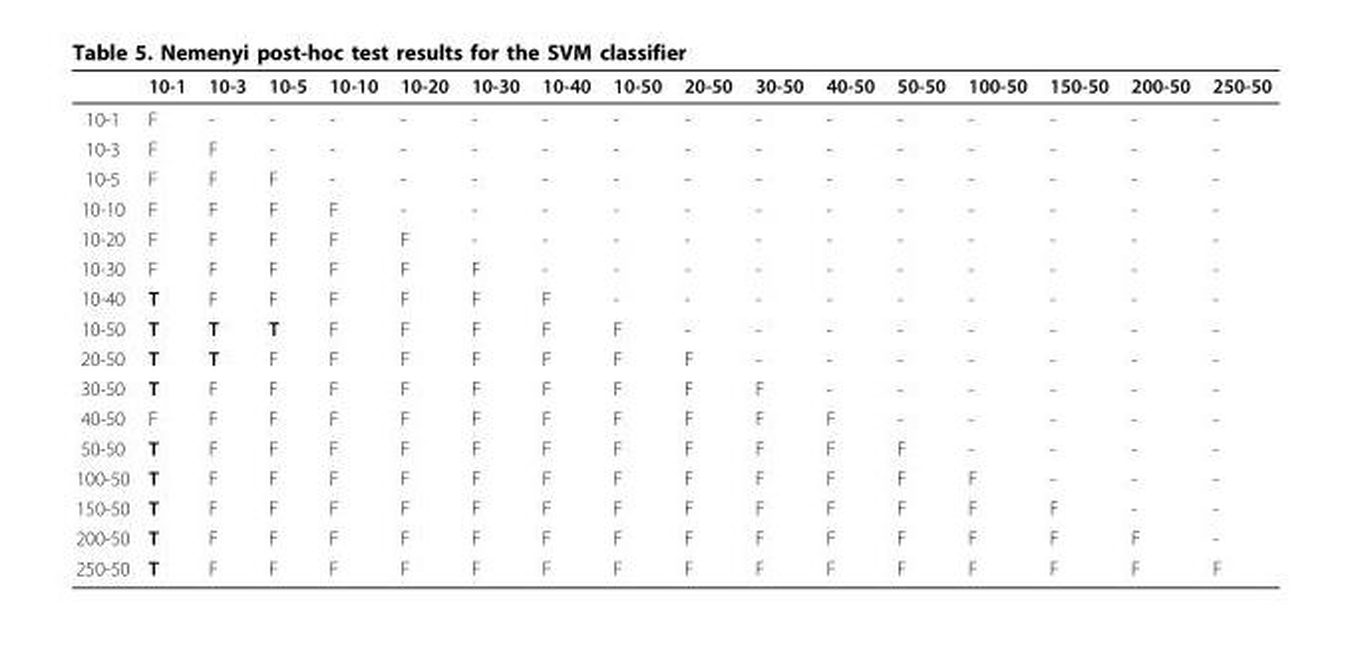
<table><thead><tr><td></td><td>10-1</td><td>10-3</td><td>10-5</td><td>10-10</td><td>10-20</td><td>10-30</td><td>10-40</td><td>10-50</td><td>20-50</td><td>30-50</td><td>40-50</td><td>50-50</td><td>100-50</td><td>150-50</td><td>200-50</td><td>250-50</td></tr></thead><tbody><tr><td>10-1</td><td>F</td><td>-</td><td>-</td><td>-</td><td>-</td><td>-</td><td>-</td><td>-</td><td>-</td><td>-</td><td>-</td><td>-</td><td>-</td><td>-</td><td>-</td><td>-</td></tr><tr><td>10-3</td><td>F</td><td>F</td><td>-</td><td>-</td><td>-</td><td>-</td><td>-</td><td>-</td><td>-</td><td>-</td><td>-</td><td>-</td><td>-</td><td>-</td><td>-</td><td>-</td></tr><tr><td>10-5</td><td>F</td><td>F</td><td>F</td><td>-</td><td>-</td><td>-</td><td>-</td><td>-</td><td>-</td><td>-</td><td>-</td><td>-</td><td>-</td><td>-</td><td>-</td><td>-</td></tr><tr><td>10-10</td><td>F</td><td>F</td><td>F</td><td>F</td><td>-</td><td>-</td><td>-</td><td>-</td><td>-</td><td>-</td><td>-</td><td>-</td><td>-</td><td>-</td><td>-</td><td>-</td></tr><tr><td>10-20</td><td>F</td><td>F</td><td>F</td><td>F</td><td>F</td><td>-</td><td>-</td><td>-</td><td>-</td><td>-</td><td>-</td><td>-</td><td>-</td><td>-</td><td>-</td><td>-</td></tr><tr><td>10-30</td><td>F</td><td>F</td><td>F</td><td>F</td><td>F</td><td>F</td><td>-</td><td>-</td><td>-</td><td>-</td><td>-</td><td>-</td><td>-</td><td>-</td><td>-</td><td>-</td></tr><tr><td>10-40</td><td>T</td><td>F</td><td>F</td><td>F</td><td>F</td><td>F</td><td>F</td><td>-</td><td>-</td><td>-</td><td>-</td><td>-</td><td>-</td><td>-</td><td>-</td><td>-</td></tr><tr><td>10-50</td><td>T</td><td>T</td><td>T</td><td>F</td><td>F</td><td>F</td><td>F</td><td>F</td><td>-</td><td>-</td><td>-</td><td>-</td><td>-</td><td>-</td><td>-</td><td>-</td></tr><tr><td>20-50</td><td>T</td><td>T</td><td>F</td><td>F</td><td>F</td><td>F</td><td>F</td><td>F</td><td>F</td><td>-</td><td>-</td><td>-</td><td>-</td><td>-</td><td>-</td><td>-</td></tr><tr><td>30-50</td><td>T</td><td>F</td><td>F</td><td>F</td><td>F</td><td>F</td><td>F</td><td>F</td><td>F</td><td>F</td><td>-</td><td>-</td><td>-</td><td>-</td><td>-</td><td>-</td></tr><tr><td>40-50</td><td>F</td><td>F</td><td>F</td><td>F</td><td>F</td><td>F</td><td>F</td><td>F</td><td>F</td><td>F</td><td>F</td><td>-</td><td>-</td><td>-</td><td>-</td><td>-</td></tr><tr><td>50-50</td><td>T</td><td>F</td><td>F</td><td>F</td><td>F</td><td>F</td><td>F</td><td>F</td><td>F</td><td>F</td><td>F</td><td>F</td><td>-</td><td>-</td><td>-</td><td>-</td></tr><tr><td>100-50</td><td>T</td><td>F</td><td>F</td><td>F</td><td>F</td><td>F</td><td>F</td><td>F</td><td>F</td><td>F</td><td>F</td><td>F</td><td>F</td><td>-</td><td>-</td><td>-</td></tr><tr><td>150-50</td><td>T</td><td>F</td><td>F</td><td>F</td><td>F</td><td>F</td><td>F</td><td>F</td><td>F</td><td>F</td><td>F</td><td>F</td><td>F</td><td>F</td><td>-</td><td>-</td></tr><tr><td>200-50</td><td>T</td><td>F</td><td>F</td><td>F</td><td>F</td><td>F</td><td>F</td><td>F</td><td>F</td><td>F</td><td>F</td><td>F</td><td>F</td><td>F</td><td>F</td><td>-</td></tr><tr><td>250-50</td><td>T</td><td>F</td><td>F</td><td>F</td><td>F</td><td>F</td><td>F</td><td>F</td><td>F</td><td>F</td><td>F</td><td>F</td><td>F</td><td>F</td><td>F</td><td>F</td></tr></tbody></table>